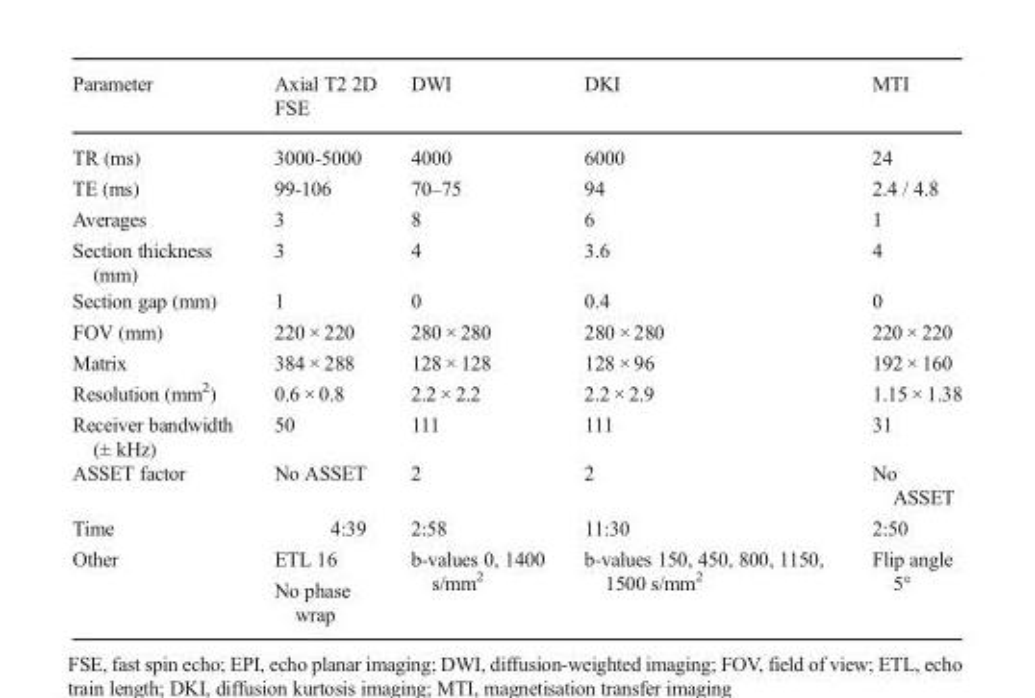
<table><thead><tr><td>Parameter</td><td>Axial T2 2D FSE</td><td>DWI</td><td>DKI</td><td>MTI</td></tr></thead><tbody><tr><td>TR (ms)</td><td>3000-5000</td><td>4000</td><td>6000</td><td>24</td></tr><tr><td>TE (ms)</td><td>99-106</td><td>70–75</td><td>94</td><td>2.4 / 4.8</td></tr><tr><td>Averages</td><td>3</td><td>8</td><td>6</td><td>1</td></tr><tr><td>Section thickness (mm)</td><td>3</td><td>4</td><td>3.6</td><td>4</td></tr><tr><td>Section gap (mm)</td><td>1</td><td>0</td><td>0.4</td><td>0</td></tr><tr><td>FOV (mm)</td><td>220 × 220</td><td>280 × 280</td><td>280 × 280</td><td>220 × 220</td></tr><tr><td>Matrix</td><td>384 × 288</td><td>128 × 128</td><td>128 × 96</td><td>192 × 160</td></tr><tr><td>Resolution (mm<sup>2</sup>)</td><td>0.6 × 0.8</td><td>2.2 × 2.2</td><td>2.2 × 2.9</td><td>1.15 × 1.38</td></tr><tr><td>Receiver bandwidth (± kHz)</td><td>50</td><td>111</td><td>111</td><td>31</td></tr><tr><td>ASSET factor</td><td>No ASSET</td><td>2</td><td>2</td><td>No ASSET</td></tr><tr><td>Time</td><td>4:39</td><td>2:58</td><td>11:30</td><td>2:50</td></tr><tr><td>Other</td><td>ETL 16 No phase wrap</td><td>b-values 0, 1400 s/mm<sup>2</sup></td><td>b-values 150, 450, 800, 1150, 1500 s/mm<sup>2</sup></td><td>Flip angle 5°</td></tr></tbody></table>